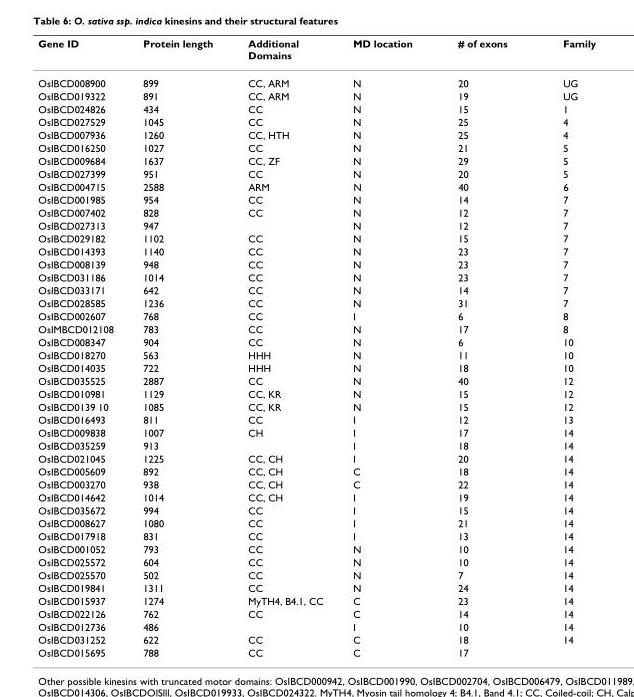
<table><thead><tr><td>Gene ID</td><td>Protein length</td><td>Additional Domains</td><td>MD location</td><td># of exons</td><td>Family</td></tr></thead><tbody><tr><td>OsIBCD008900</td><td>899</td><td>CC, ARM</td><td>N</td><td>20</td><td>UG</td></tr><tr><td>OsIBCD019322</td><td>891</td><td>CC, ARM</td><td>N</td><td>19</td><td>UG</td></tr><tr><td>OsIBCD024826</td><td>434</td><td>CC</td><td>N</td><td>15</td><td>1</td></tr><tr><td>OsIBCD027529</td><td>1045</td><td>CC</td><td>N</td><td>25</td><td>4</td></tr><tr><td>OsIBCD007936</td><td>1260</td><td>CC, HTH</td><td>N</td><td>25</td><td>4</td></tr><tr><td>OsIBCD016250</td><td>1027</td><td>CC</td><td>N</td><td>21</td><td>5</td></tr><tr><td>OsIBCD009684</td><td>1637</td><td>CC, ZF</td><td>N</td><td>29</td><td>5</td></tr><tr><td>OsIBCD027399</td><td>951</td><td>CC</td><td>N</td><td>20</td><td>5</td></tr><tr><td>OsIBCD004715</td><td>2588</td><td>ARM</td><td>N</td><td>40</td><td>6</td></tr><tr><td>OsIBCD001985</td><td>954</td><td>CC</td><td>N</td><td>14</td><td>7</td></tr><tr><td>OsIBCD007402</td><td>828</td><td>CC</td><td>N</td><td>12</td><td>7</td></tr><tr><td>OsIBCD027313</td><td>947</td><td></td><td>N</td><td>12</td><td>7</td></tr><tr><td>OsIBCD029182</td><td>1102</td><td>CC</td><td>N</td><td>15</td><td>7</td></tr><tr><td>OsIBCD014393</td><td>1140</td><td>CC</td><td>N</td><td>23</td><td>7</td></tr><tr><td>OsIBCD008139</td><td>948</td><td>CC</td><td>N</td><td>23</td><td>7</td></tr><tr><td>OsIBCD031186</td><td>1014</td><td>CC</td><td>N</td><td>23</td><td>7</td></tr><tr><td>OsIBCD033171</td><td>642</td><td>CC</td><td>N</td><td>14</td><td>7</td></tr><tr><td>OsIBCD028585</td><td>1236</td><td>CC</td><td>N</td><td>31</td><td>7</td></tr><tr><td>OsIBCD002607</td><td>768</td><td>CC</td><td>I</td><td>6</td><td>8</td></tr><tr><td>OsIMBCD012108</td><td>783</td><td>CC</td><td>N</td><td>17</td><td>8</td></tr><tr><td>OsIBCD008347</td><td>904</td><td>CC</td><td>N</td><td>6</td><td>10</td></tr><tr><td>OsIBCD018270</td><td>563</td><td>HHH</td><td>N</td><td>11</td><td>10</td></tr><tr><td>OsIBCD014035</td><td>722</td><td>HHH</td><td>N</td><td>18</td><td>10</td></tr><tr><td>OsIBCD035525</td><td>2887</td><td>CC</td><td>N</td><td>40</td><td>12</td></tr><tr><td>OsIBCD010981</td><td>1129</td><td>CC, KR</td><td>N</td><td>15</td><td>12</td></tr><tr><td>OsIBCD0139 10</td><td>1085</td><td>CC, KR</td><td>N</td><td>15</td><td>12</td></tr><tr><td>OsIBCD016493</td><td>811</td><td>CC</td><td>I</td><td>12</td><td>13</td></tr><tr><td>OsIBCD009838</td><td>1007</td><td>CH</td><td>I</td><td>17</td><td>14</td></tr><tr><td>OsIBCD035259</td><td>913</td><td></td><td>I</td><td>18</td><td>14</td></tr><tr><td>OsIBCD021045</td><td>1225</td><td>CC, CH</td><td>I</td><td>20</td><td>14</td></tr><tr><td>OsIBCD005609</td><td>892</td><td>CC, CH</td><td>C</td><td>18</td><td>14</td></tr><tr><td>OsIBCD003270</td><td>938</td><td>CC, CH</td><td>C</td><td>22</td><td>14</td></tr><tr><td>OsIBCD014642</td><td>1014</td><td>CC, CH</td><td>I</td><td>19</td><td>14</td></tr><tr><td>OsIBCD035672</td><td>994</td><td>CC</td><td>I</td><td>15</td><td>14</td></tr><tr><td>OsIBCD008627</td><td>1080</td><td>CC</td><td>I</td><td>21</td><td>14</td></tr><tr><td>OsIBCD017918</td><td>831</td><td>CC</td><td>I</td><td>13</td><td>14</td></tr><tr><td>OsIBCD001052</td><td>793</td><td>CC</td><td>N</td><td>10</td><td>14</td></tr><tr><td>OsIBCD025572</td><td>604</td><td>CC</td><td>N</td><td>10</td><td>14</td></tr><tr><td>OsIBCD025570</td><td>502</td><td>CC</td><td>N</td><td>7</td><td>14</td></tr><tr><td>OsIBCD019841</td><td>1311</td><td>CC</td><td>N</td><td>24</td><td>14</td></tr><tr><td>OsIBCD015937</td><td>1274</td><td>MyTH4, B4.1, CC</td><td>C</td><td>23</td><td>14</td></tr><tr><td>OsIBCD022126</td><td>762</td><td>CC</td><td>C</td><td>14</td><td>14</td></tr><tr><td>OsIBCD012736</td><td>486</td><td></td><td>I</td><td>10</td><td>14</td></tr><tr><td>OsIBCD031252</td><td>622</td><td>CC</td><td>C</td><td>18</td><td>14</td></tr><tr><td>OsIBCD015695</td><td>788</td><td>CC</td><td>C</td><td>17</td><td></td></tr></tbody></table>